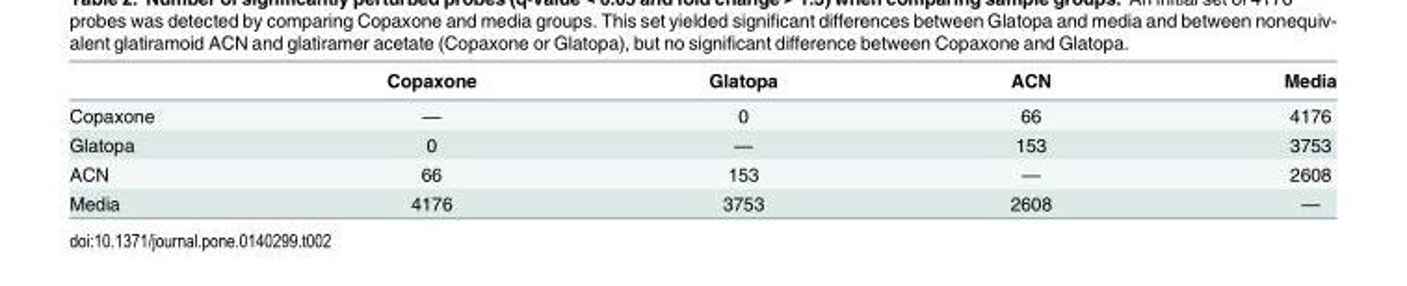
<table><thead><tr><td></td><td>Copaxone</td><td>Glatopa</td><td>ACN</td><td>Media</td></tr></thead><tbody><tr><td>Copaxone</td><td>—</td><td>0</td><td>66</td><td>4176</td></tr><tr><td>Glatopa</td><td>0</td><td>—</td><td>153</td><td>3753</td></tr><tr><td>ACN</td><td>66</td><td>153</td><td>—</td><td>2608</td></tr><tr><td>Media</td><td>4176</td><td>3753</td><td>2608</td><td>—</td></tr></tbody></table>